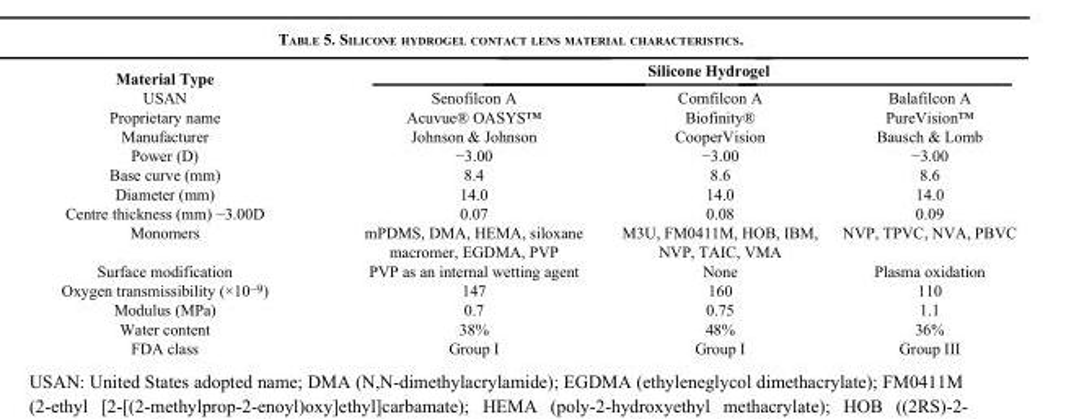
<table><thead><tr><td rowspan="2">Material Type USAN</td><td colspan="3">Silicone Hydrogel</td></tr><tr><td>Senofilcon A</td><td>Comfilcon A</td><td>Balafilcon A</td></tr></thead><tbody><tr><td>Proprietary name</td><td>Acuvue® OASYS™</td><td>Biofinity®</td><td>PureVision™</td></tr><tr><td>Manufacturer</td><td>Johnson &amp; Johnson</td><td>CooperVision</td><td>Bausch &amp; Lomb</td></tr><tr><td>Power (D)</td><td>−3.00</td><td>−3.00</td><td>−3.00</td></tr><tr><td>Base curve (mm)</td><td>8.4</td><td>8.6</td><td>8.6</td></tr><tr><td>Diameter (mm)</td><td>14.0</td><td>14.0</td><td>14.0</td></tr><tr><td>Centre thickness (mm) −3.00D</td><td>0.07</td><td>0.08</td><td>0.09</td></tr><tr><td>Monomers</td><td>mPDMS, DMA, HEMA, siloxane macromer, EGDMA, PVP</td><td>M3U, FM0411M, HOB, IBM, NVP, TAIC, VMA</td><td>NVP, TPVC, NVA, PBVC</td></tr><tr><td>Surface modification</td><td>PVP as an internal wetting agent</td><td>None</td><td>Plasma oxidation</td></tr><tr><td>Oxygen transmissibility (×10<sup>−9</sup>)</td><td>147</td><td>160</td><td>110</td></tr><tr><td>Modulus (MPa)</td><td>0.7</td><td>0.75</td><td>1.1</td></tr><tr><td>Water content</td><td>38%</td><td>48%</td><td>36%</td></tr><tr><td>FDA class</td><td>Group I</td><td>Group I</td><td>Group III</td></tr></tbody></table>